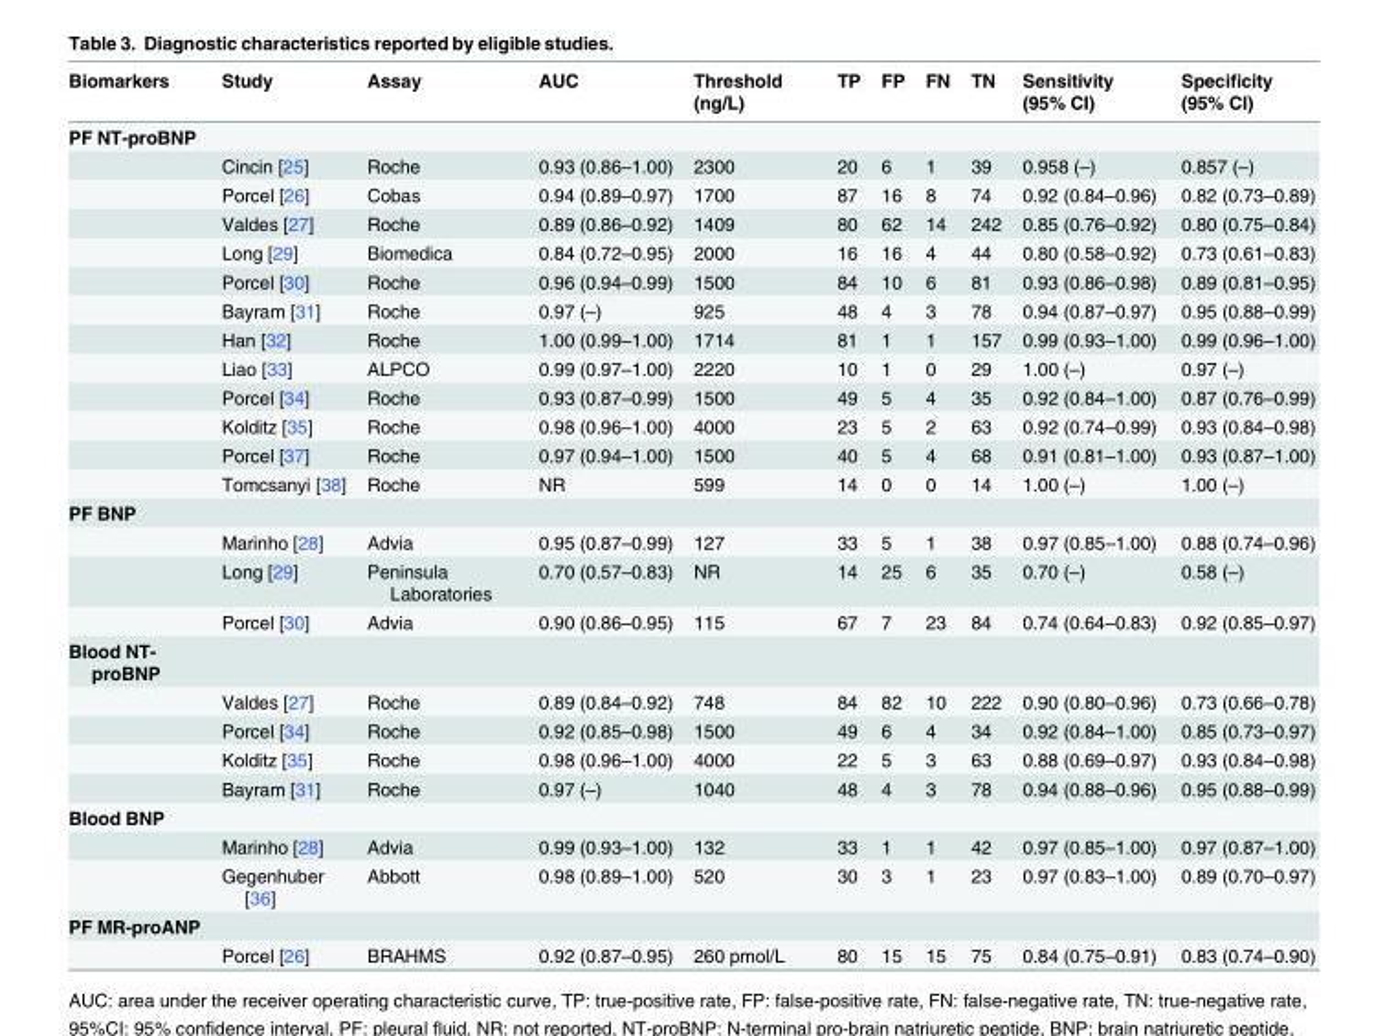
<table><thead><tr><td>Biomarkers</td><td>Study</td><td>Assay</td><td>AUC</td><td>Threshold (ng/L)</td><td>TP</td><td>FP</td><td>FN</td><td>TN</td><td>Sensitivity (95% CI)</td><td>Specificity (95% CI)</td></tr></thead><tbody><tr><td colspan="11">PF NT-proBNP</td></tr><tr><td></td><td>Cincin [25]</td><td>Roche</td><td>0.93 (0.86–1.00)</td><td>2300</td><td>20</td><td>6</td><td>1</td><td>39</td><td>0.958 (–)</td><td>0.857 (–)</td></tr><tr><td></td><td>Porcel [26]</td><td>Cobas</td><td>0.94 (0.89–0.97)</td><td>1700</td><td>87</td><td>16</td><td>8</td><td>74</td><td>0.92 (0.84–0.96)</td><td>0.82 (0.73–0.89)</td></tr><tr><td></td><td>Valdes [27]</td><td>Roche</td><td>0.89 (0.86–0.92)</td><td>1409</td><td>80</td><td>62</td><td>14</td><td>242</td><td>0.85 (0.76–0.92)</td><td>0.80 (0.75–0.84)</td></tr><tr><td></td><td>Long [29]</td><td>Biomedica</td><td>0.84 (0.72–0.95)</td><td>2000</td><td>16</td><td>16</td><td>4</td><td>44</td><td>0.80 (0.58–0.92)</td><td>0.73 (0.61–0.83)</td></tr><tr><td></td><td>Porcel [30]</td><td>Roche</td><td>0.96 (0.94–0.99)</td><td>1500</td><td>84</td><td>10</td><td>6</td><td>81</td><td>0.93 (0.86–0.98)</td><td>0.89 (0.81–0.95)</td></tr><tr><td></td><td>Bayram [31]</td><td>Roche</td><td>0.97 (–)</td><td>925</td><td>48</td><td>4</td><td>3</td><td>78</td><td>0.94 (0.87–0.97)</td><td>0.95 (0.88–0.99)</td></tr><tr><td></td><td>Han [32]</td><td>Roche</td><td>1.00 (0.99–1.00)</td><td>1714</td><td>81</td><td>1</td><td>1</td><td>157</td><td>0.99 (0.93–1.00)</td><td>0.99 (0.96–1.00)</td></tr><tr><td></td><td>Liao [33]</td><td>ALPCO</td><td>0.99 (0.97–1.00)</td><td>2220</td><td>10</td><td>1</td><td>0</td><td>29</td><td>1.00 (–)</td><td>0.97 (–)</td></tr><tr><td></td><td>Porcel [34]</td><td>Roche</td><td>0.93 (0.87–0.99)</td><td>1500</td><td>49</td><td>5</td><td>4</td><td>35</td><td>0.92 (0.84–1.00)</td><td>0.87 (0.76–0.99)</td></tr><tr><td></td><td>Kolditz [35]</td><td>Roche</td><td>0.98 (0.96–1.00)</td><td>4000</td><td>23</td><td>5</td><td>2</td><td>63</td><td>0.92 (0.74–0.99)</td><td>0.93 (0.84–0.98)</td></tr><tr><td></td><td>Porcel [37]</td><td>Roche</td><td>0.97 (0.94–1.00)</td><td>1500</td><td>40</td><td>5</td><td>4</td><td>68</td><td>0.91 (0.81–1.00)</td><td>0.93 (0.87–1.00)</td></tr><tr><td></td><td>Tomcsanyi [38]</td><td>Roche</td><td>NR</td><td>599</td><td>14</td><td>0</td><td>0</td><td>14</td><td>1.00 (–)</td><td>1.00 (–)</td></tr><tr><td colspan="11">PF BNP</td></tr><tr><td></td><td>Marinho [28]</td><td>Advia</td><td>0.95 (0.87–0.99)</td><td>127</td><td>33</td><td>5</td><td>1</td><td>38</td><td>0.97 (0.85–1.00)</td><td>0.88 (0.74–0.96)</td></tr><tr><td></td><td>Long [29]</td><td>Peninsula Laboratories</td><td>0.70 (0.57–0.83)</td><td>NR</td><td>14</td><td>25</td><td>6</td><td>35</td><td>0.70 (–)</td><td>0.58 (–)</td></tr><tr><td></td><td>Porcel [30]</td><td>Advia</td><td>0.90 (0.86–0.95)</td><td>115</td><td>67</td><td>7</td><td>23</td><td>84</td><td>0.74 (0.64–0.83)</td><td>0.92 (0.85–0.97)</td></tr><tr><td colspan="11">Blood NT- proBNP</td></tr><tr><td></td><td>Valdes [27]</td><td>Roche</td><td>0.89 (0.84–0.92)</td><td>748</td><td>84</td><td>82</td><td>10</td><td>222</td><td>0.90 (0.80–0.96)</td><td>0.73 (0.66–0.78)</td></tr><tr><td></td><td>Porcel [34]</td><td>Roche</td><td>0.92 (0.85–0.98)</td><td>1500</td><td>49</td><td>6</td><td>4</td><td>34</td><td>0.92 (0.84–1.00)</td><td>0.85 (0.73–0.97)</td></tr><tr><td></td><td>Kolditz [35]</td><td>Roche</td><td>0.98 (0.96–1.00)</td><td>4000</td><td>22</td><td>5</td><td>3</td><td>63</td><td>0.88 (0.69–0.97)</td><td>0.93 (0.84–0.98)</td></tr><tr><td></td><td>Bayram [31]</td><td>Roche</td><td>0.97 (–)</td><td>1040</td><td>48</td><td>4</td><td>3</td><td>78</td><td>0.94 (0.88–0.96)</td><td>0.95 (0.88–0.99)</td></tr><tr><td colspan="11">Blood BNP</td></tr><tr><td></td><td>Marinho [28]</td><td>Advia</td><td>0.99 (0.93–1.00)</td><td>132</td><td>33</td><td>1</td><td>1</td><td>42</td><td>0.97 (0.85–1.00)</td><td>0.97 (0.87–1.00)</td></tr><tr><td></td><td>Gegenhuber [36]</td><td>Abbott</td><td>0.98 (0.89–1.00)</td><td>520</td><td>30</td><td>3</td><td>1</td><td>23</td><td>0.97 (0.83–1.00)</td><td>0.89 (0.70–0.97)</td></tr><tr><td colspan="11">PF MR-proANP</td></tr><tr><td></td><td>Porcel [26]</td><td>BRAHMS</td><td>0.92 (0.87–0.95)</td><td>260 pmol/L</td><td>80</td><td>15</td><td>15</td><td>75</td><td>0.84 (0.75–0.91)</td><td>0.83 (0.74–0.90)</td></tr></tbody></table>